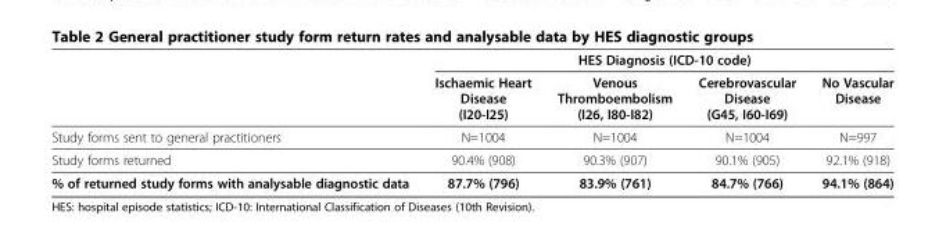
<table><thead><tr><td rowspan="2"></td><td colspan="4">HES Diagnosis (ICD-10 code)</td></tr><tr><td>Ischaemic Heart Disease (I20-I25)</td><td>Venous Thromboembolism (I26, I80-I82)</td><td>Cerebrovascular Disease (G45, I60-I69)</td><td>No Vascular Disease</td></tr></thead><tbody><tr><td>Study forms sent to general practitioners</td><td>N=1004</td><td>N=1004</td><td>N=1004</td><td>N=997</td></tr><tr><td>Study forms returned</td><td>90.4% (908)</td><td>90.3% (907)</td><td>90.1% (905)</td><td>92.1% (918)</td></tr><tr><td>% of returned study forms with analysable diagnostic data</td><td>87.7% (796)</td><td>83.9% (761)</td><td>84.7% (766)</td><td>94.1% (864)</td></tr></tbody></table>